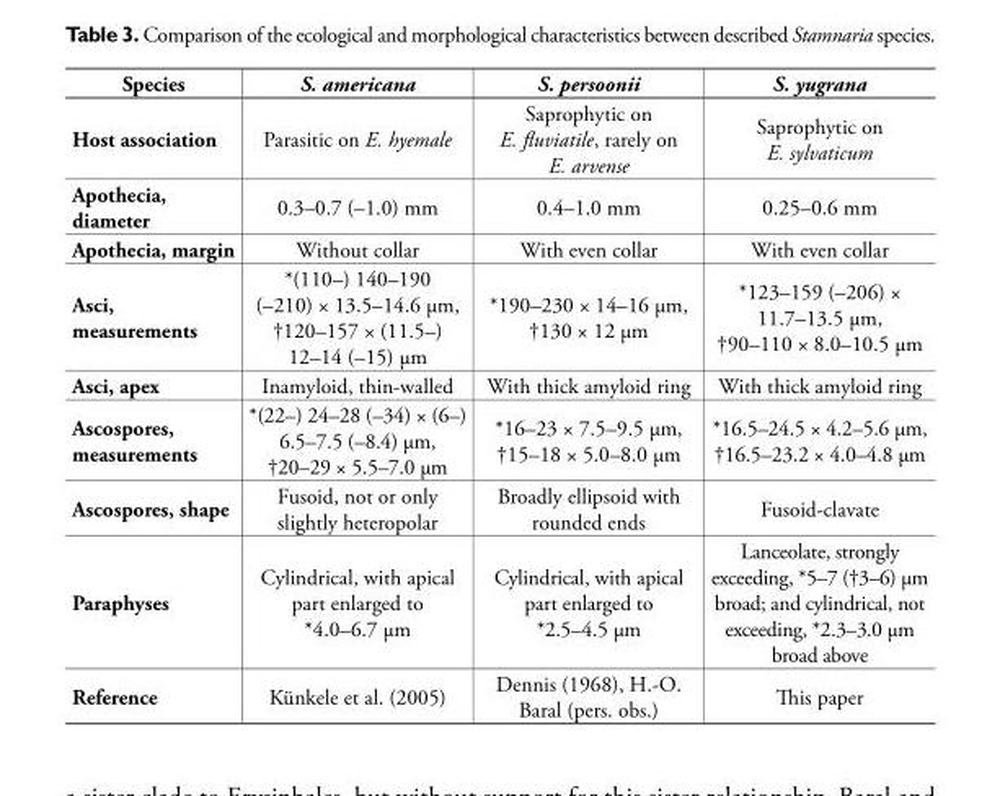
<table><thead><tr><td>Species</td><td>S. americana</td><td>S. persoonii</td><td>S. yugrana</td></tr></thead><tbody><tr><td>Host association</td><td>Parasitic on E. hyemale</td><td>Saprophytic on E. fluviatile, rarely on E. arvense</td><td>Saprophytic on E. sylvaticum</td></tr><tr><td>Apothecia, diameter</td><td>0.3–0.7 (–1.0) mm</td><td>0.4–1.0 mm</td><td>0.25–0.6 mm</td></tr><tr><td>Apothecia, margin</td><td>Without collar</td><td>With even collar</td><td>With even collar</td></tr><tr><td>Asci, measurements</td><td>*(110–) 140–190 (–210) × 13.5–14.6 μm, †120–157 × (11.5–) 12–14 (–15) μm</td><td>*190–230 × 14–16 μm, †130 × 12 μm</td><td>*123–159 (–206) × 11.7–13.5 μm, †90–110 × 8.0–10.5 μm</td></tr><tr><td>Asci, apex</td><td>Inamyloid, thin-walled</td><td>With thick amyloid ring</td><td>With thick amyloid ring</td></tr><tr><td>Ascospores, measurements</td><td>*(22–) 24–28 (–34) × (6–) 6.5–7.5 (–8.4) μm, †20–29 × 5.5–7.0 μm</td><td>*16–23 × 7.5–9.5 μm, †15–18 × 5.0–8.0 μm</td><td>*16.5–24.5 × 4.2–5.6 μm, †16.5–23.2 × 4.0–4.8 μm</td></tr><tr><td>Ascospores, shape</td><td>Fusoid, not or only slightly heteropolar</td><td>Broadly ellipsoid with rounded ends</td><td>Fusoid-clavate</td></tr><tr><td>Paraphyses</td><td>Cylindrical, with apical part enlarged to *4.0–6.7 μm</td><td>Cylindrical, with apical part enlarged to *2.5–4.5 μm</td><td>Lanceolate, strongly exceeding, *5–7 (†3–6) μm broad; and cylindrical, not exceeding, *2.3–3.0 μm broad above</td></tr><tr><td>Reference</td><td>Künkele et al. (2005)</td><td>Dennis (1968), H.-O. Baral (pers. obs.)</td><td>This paper</td></tr></tbody></table>